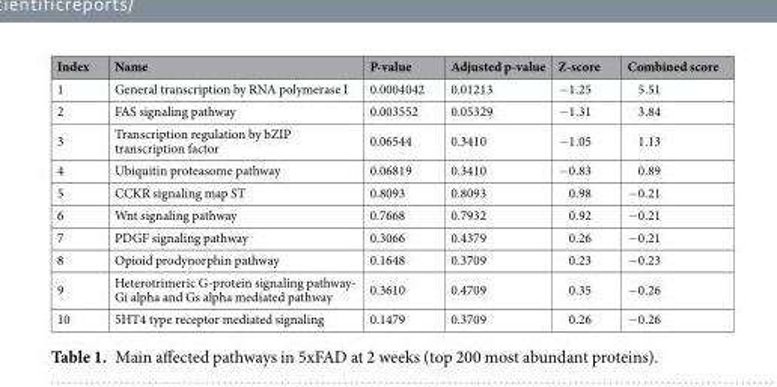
<table><thead><tr><td>Index</td><td>Name</td><td>P-value</td><td>Adjusted p-value</td><td>Z-score</td><td>Combined score</td></tr></thead><tbody><tr><td>1</td><td>General transcription by RNA polymerase I</td><td>0.0004042</td><td>0.01213</td><td>−1.25</td><td>5.51</td></tr><tr><td>2</td><td>FAS signaling pathway</td><td>0.003552</td><td>0.05329</td><td>−1.31</td><td>3.84</td></tr><tr><td>3</td><td>Transcription regulation by bZIP transcription factor</td><td>0.06544</td><td>0.3410</td><td>−1.05</td><td>1.13</td></tr><tr><td>4</td><td>Ubiquitin proteasome pathway</td><td>0.06819</td><td>0.3410</td><td>−0.83</td><td>0.89</td></tr><tr><td>5</td><td>CCKR signaling map ST</td><td>0.8093</td><td>0.8093</td><td>0.98</td><td>−0.21</td></tr><tr><td>6</td><td>Wnt signaling pathway</td><td>0.7668</td><td>0.7932</td><td>0.92</td><td>−0.21</td></tr><tr><td>7</td><td>PDGF signaling pathway</td><td>0.3066</td><td>0.4379</td><td>0.26</td><td>−0.21</td></tr><tr><td>8</td><td>Opioid prodynorphin pathway</td><td>0.1648</td><td>0.3709</td><td>0.23</td><td>−0.23</td></tr><tr><td>9</td><td>Heterotrimeric G-protein signaling pathway- Gi alpha and Gs alpha mediated pathway</td><td>0.3610</td><td>0.4709</td><td>0.35</td><td>−0.26</td></tr><tr><td>10</td><td>5HT4 type receptor mediated signaling</td><td>0.1479</td><td>0.3709</td><td>0.26</td><td>−0.26</td></tr></tbody></table>